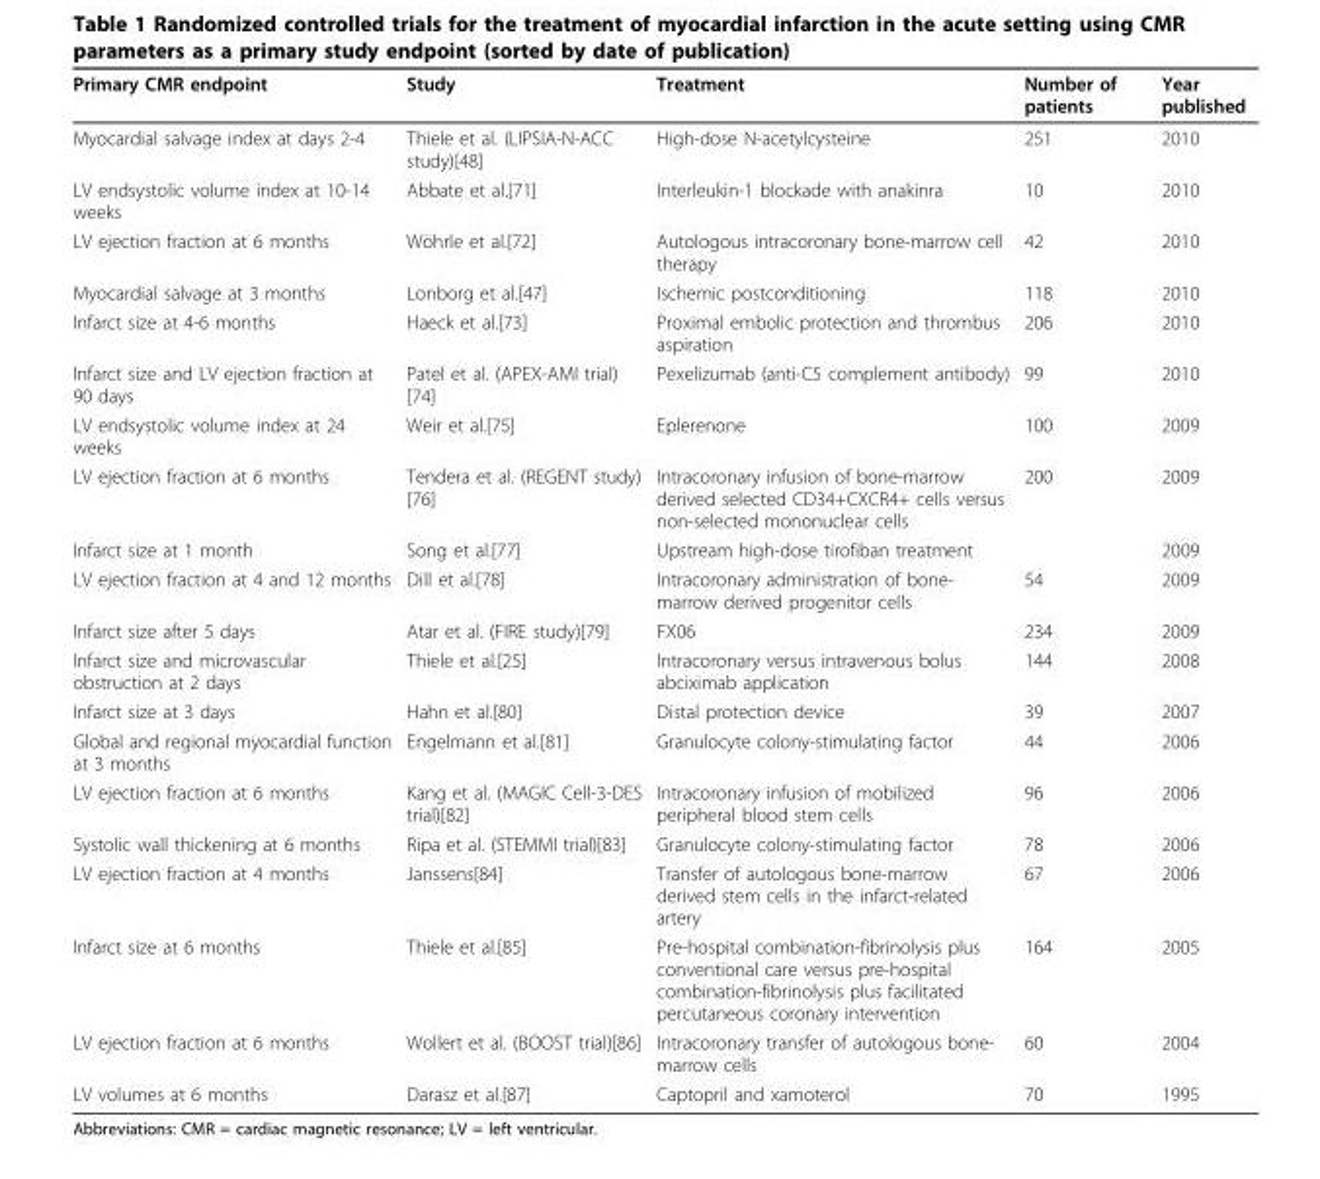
<table><thead><tr><td>Primary CMR endpoint</td><td>Study</td><td>Treatment</td><td>Number of patients</td><td>Year published</td></tr></thead><tbody><tr><td>Myocardial salvage index at days 2-4</td><td>Thiele et al. (LIPSIA-N-ACC study)[48]</td><td>High-dose N-acetylcysteine</td><td>251</td><td>2010</td></tr><tr><td>LV endsystolic volume index at 10-14 weeks</td><td>Abbate et al.[71]</td><td>Interleukin-1 blockade with anakinra</td><td>10</td><td>2010</td></tr><tr><td>LV ejection fraction at 6 months</td><td>Wöhrle et al.[72]</td><td>Autologous intracoronary bone-marrow cell therapy</td><td>42</td><td>2010</td></tr><tr><td>Myocardial salvage at 3 months</td><td>Lonborg et al.[47]</td><td>Ischemic postconditioning</td><td>118</td><td>2010</td></tr><tr><td>Infarct size at 4-6 months</td><td>Haeck et al.[73]</td><td>Proximal embolic protection and thrombus aspiration</td><td>206</td><td>2010</td></tr><tr><td>Infarct size and LV ejection fraction at 90 days</td><td>Patel et al. (APEX-AMI trial) [74]</td><td>Pexelizumab (anti-C5 complement antibody)</td><td>99</td><td>2010</td></tr><tr><td>LV endsystolic volume index at 24 weeks</td><td>Weir et al.[75]</td><td>Eplerenone</td><td>100</td><td>2009</td></tr><tr><td>LV ejection fraction at 6 months</td><td>Tendera et al. (REGENT study) [76]</td><td>Intracoronary infusion of bone-marrow derived selected CD34+CXCR4+ cells versus non-selected mononuclear cells</td><td>200</td><td>2009</td></tr><tr><td>Infarct size at 1 month</td><td>Song et al.[77]</td><td>Upstream high-dose tirofiban treatment</td><td></td><td>2009</td></tr><tr><td>LV ejection fraction at 4 and 12 months</td><td>Dill et al.[78]</td><td>Intracoronary administration of bone- marrow derived progenitor cells</td><td>54</td><td>2009</td></tr><tr><td>Infarct size after 5 days</td><td>Atar et al. (FIRE study)[79]</td><td>FX06</td><td>234</td><td>2009</td></tr><tr><td>Infarct size and microvascular obstruction at 2 days</td><td>Thiele et al.[25]</td><td>Intracoronary versus intravenous bolus abciximab application</td><td>144</td><td>2008</td></tr><tr><td>Infarct size at 3 days</td><td>Hahn et al.[80]</td><td>Distal protection device</td><td>39</td><td>2007</td></tr><tr><td>Global and regional myocardial function at 3 months</td><td>Engelmann et al.[81]</td><td>Granulocyte colony-stimulating factor</td><td>44</td><td>2006</td></tr><tr><td>LV ejection fraction at 6 months</td><td>Kang et al. (MAGIC Cell-3-DES trial)[82]</td><td>Intracoronary infusion of mobilized peripheral blood stem cells</td><td>96</td><td>2006</td></tr><tr><td>Systolic wall thickening at 6 months</td><td>Ripa et al. (STEMMI trial)[83]</td><td>Granulocyte colony-stimulating factor</td><td>78</td><td>2006</td></tr><tr><td>LV ejection fraction at 4 months</td><td>Janssens[84]</td><td>Transfer of autologous bone-marrow derived stem cells in the infarct-related artery</td><td>67</td><td>2006</td></tr><tr><td>Infarct size at 6 months</td><td>Thiele et al.[85]</td><td>Pre-hospital combination-fibrinolysis plus conventional care versus pre-hospital combination-fibrinolysis plus facilitated percutaneous coronary intervention</td><td>164</td><td>2005</td></tr><tr><td>LV ejection fraction at 6 months</td><td>Wollert et al. (BOOST trial)[86]</td><td>Intracoronary transfer of autologous bone- marrow cells</td><td>60</td><td>2004</td></tr><tr><td>LV volumes at 6 months</td><td>Darasz et al.[87]</td><td>Captopril and xamoterol</td><td>70</td><td>1995</td></tr></tbody></table>